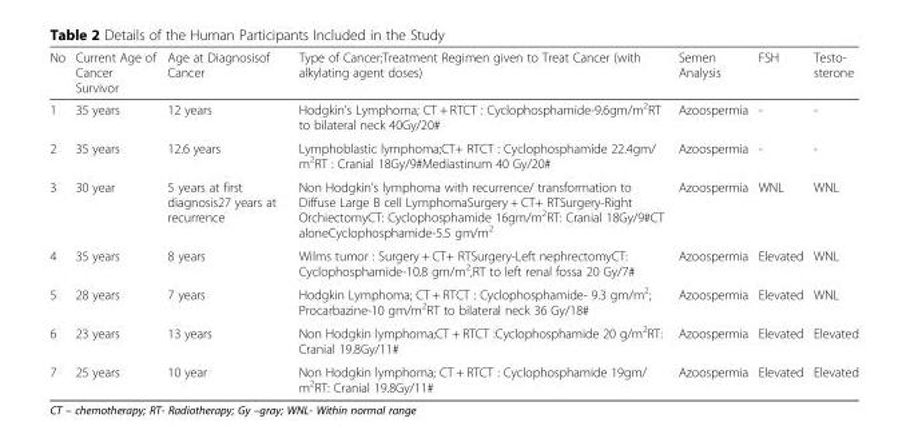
<table><thead><tr><td>No</td><td>Current Age of Cancer Survivor</td><td>Age at Diagnosisof Cancer</td><td>Type of Cancer;Treatment Regimen given to Treat Cancer (with alkylating agent doses)</td><td>Semen Analysis</td><td>FSH</td><td>Testo- sterone</td></tr></thead><tbody><tr><td>1</td><td>35 years</td><td>12 years</td><td>Hodgkin’s Lymphoma; CT + RTCT : Cyclophosphamide-9.6gm/m<sup>2</sup>RT to bilateral neck 40Gy/20#</td><td>Azoospermia</td><td>-</td><td>-</td></tr><tr><td>2</td><td>35 years</td><td>12.6 years</td><td>Lymphoblastic lymphoma;CT+ RTCT : Cyclophosphamide 22.4gm/ m<sup>2</sup>RT : Cranial 18Gy/9#Mediastinum 40 Gy/20#</td><td>Azoospermia</td><td>-</td><td>-</td></tr><tr><td>3</td><td>30 year</td><td>5 years at first diagnosis27 years at recurrence</td><td>Non Hodgkin’s lymphoma with recurrence/ transformation to Diffuse Large B cell LymphomaSurgery + CT+ RTSurgery-Right OrchiectomyCT: Cyclophosphamide 16gm/m<sup>2</sup>RT: Cranial 18Gy/9#CT aloneCyclophosphamide-5.5 gm/m<sup>2</sup></td><td>Azoospermia</td><td>WNL</td><td>WNL</td></tr><tr><td>4</td><td>35 years</td><td>8 years</td><td>Wilms tumor : Surgery + CT+ RTSurgery-Left nephrectomyCT: Cyclophosphamide-10.8 gm/m<sup>2</sup>,RT to left renal fossa 20 Gy/7#</td><td>Azoospermia</td><td>Elevated</td><td>WNL</td></tr><tr><td>5</td><td>28 years</td><td>7 years</td><td>Hodgkin Lymphoma; CT + RTCT : Cyclophosphamide- 9.3 gm/m<sup>2</sup>; Procarbazine-10 gm/m<sup>2</sup>RT to bilateral neck 36 Gy/18#</td><td>Azoospermia</td><td>Elevated</td><td>WNL</td></tr><tr><td>6</td><td>23 years</td><td>13 years</td><td>Non Hodgkin lymphoma;CT + RTCT :Cyclophosphamide 20 g/m<sup>2</sup>RT: Cranial 19.8Gy/11#</td><td>Azoospermia</td><td>Elevated</td><td>Elevated</td></tr><tr><td>7</td><td>25 years</td><td>10 year</td><td>Non Hodgkin lymphoma; CT + RTCT : Cyclophosphamide 19gm/ m<sup>2</sup>RT: Cranial 19.8Gy/11#</td><td>Azoospermia</td><td>Elevated</td><td>Elevated</td></tr></tbody></table>